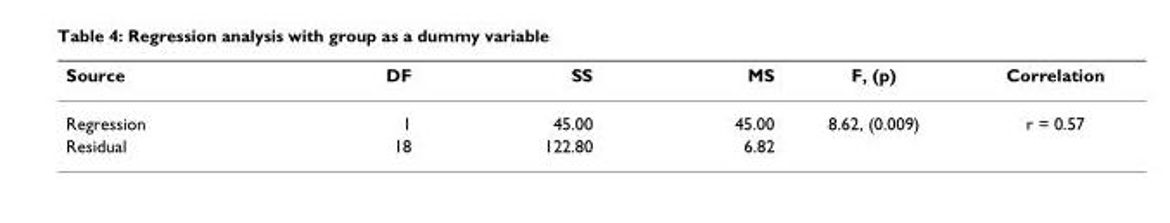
<table><thead><tr><td>Source</td><td>DF</td><td>SS</td><td>MS</td><td>F, (p)</td><td>Correlation</td></tr></thead><tbody><tr><td>Regression</td><td>1</td><td>45.00</td><td>45.00</td><td>8.62, (0.009)</td><td>r = 0.57</td></tr><tr><td>Residual</td><td>18</td><td>122.80</td><td>6.82</td><td></td><td></td></tr></tbody></table>